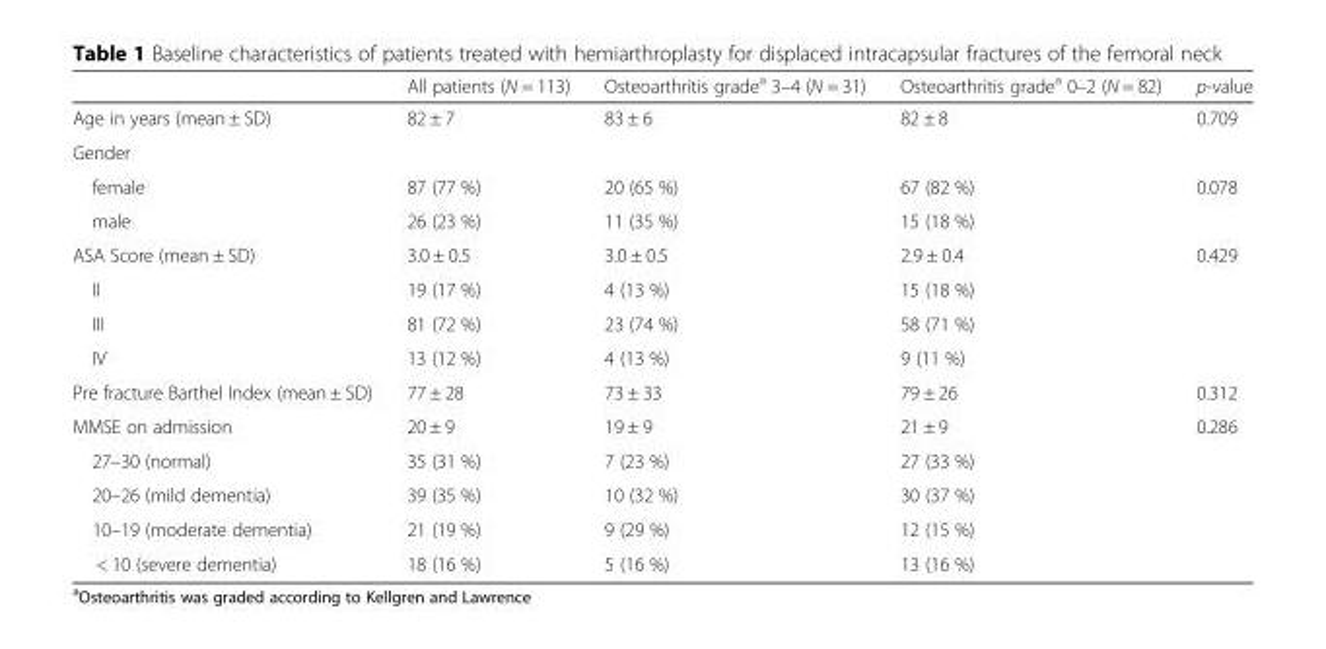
<table><thead><tr><td></td><td>All patients (N = 113)</td><td>Osteoarthritis grade<sup>a</sup> 3–4 (N = 31)</td><td>Osteoarthritis grade<sup>a</sup> 0–2 (N = 82)</td><td>p-value</td></tr></thead><tbody><tr><td>Age in years (mean ± SD)</td><td>82 ± 7</td><td>83 ± 6</td><td>82 ± 8</td><td>0.709</td></tr><tr><td colspan="5">Gender</td></tr><tr><td>female</td><td>87 (77 %)</td><td>20 (65 %)</td><td>67 (82 %)</td><td>0.078</td></tr><tr><td>male</td><td>26 (23 %)</td><td>11 (35 %)</td><td>15 (18 %)</td><td></td></tr><tr><td>ASA Score (mean ± SD)</td><td>3.0 ± 0.5</td><td>3.0 ± 0.5</td><td>2.9 ± 0.4</td><td>0.429</td></tr><tr><td>II</td><td>19 (17 %)</td><td>4 (13 %)</td><td>15 (18 %)</td><td></td></tr><tr><td>III</td><td>81 (72 %)</td><td>23 (74 %)</td><td>58 (71 %)</td><td></td></tr><tr><td>IV</td><td>13 (12 %)</td><td>4 (13 %)</td><td>9 (11 %)</td><td></td></tr><tr><td>Pre fracture Barthel Index (mean ± SD)</td><td>77 ± 28</td><td>73 ± 33</td><td>79 ± 26</td><td>0.312</td></tr><tr><td>MMSE on admission</td><td>20 ± 9</td><td>19 ± 9</td><td>21 ± 9</td><td>0.286</td></tr><tr><td>27–30 (normal)</td><td>35 (31 %)</td><td>7 (23 %)</td><td>27 (33 %)</td><td></td></tr><tr><td>20–26 (mild dementia)</td><td>39 (35 %)</td><td>10 (32 %)</td><td>30 (37 %)</td><td></td></tr><tr><td>10–19 (moderate dementia)</td><td>21 (19 %)</td><td>9 (29 %)</td><td>12 (15 %)</td><td></td></tr><tr><td>&lt; 10 (severe dementia)</td><td>18 (16 %)</td><td>5 (16 %)</td><td>13 (16 %)</td><td></td></tr></tbody></table>